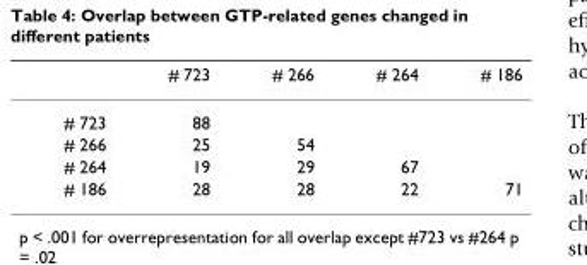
<table><thead><tr><td></td><td># 723</td><td># 266</td><td># 264</td><td># 186</td></tr></thead><tbody><tr><td># 723</td><td>88</td><td></td><td></td><td></td></tr><tr><td># 266</td><td>25</td><td>54</td><td></td><td></td></tr><tr><td># 264</td><td>19</td><td>29</td><td>67</td><td></td></tr><tr><td># 186</td><td>28</td><td>28</td><td>22</td><td>71</td></tr></tbody></table>